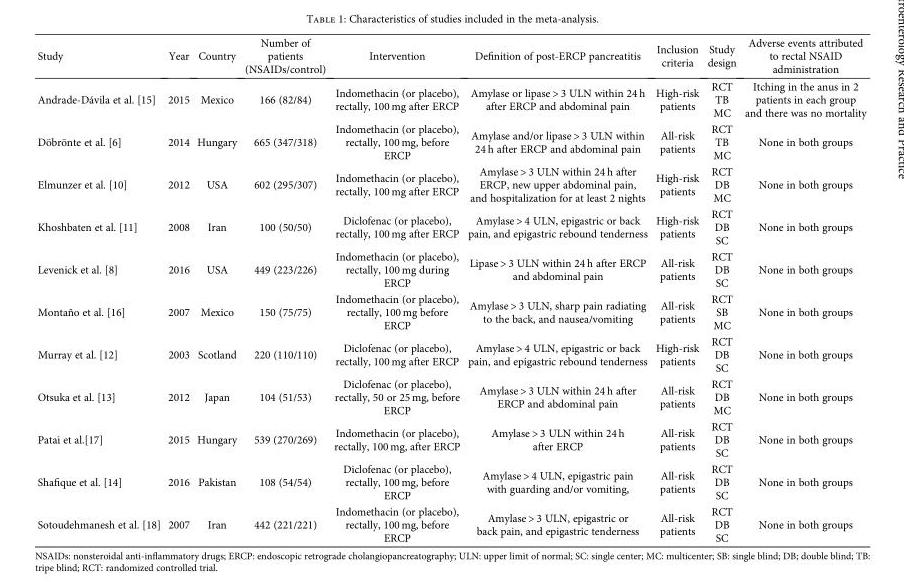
<table><thead><tr><td>Study</td><td>Year</td><td>Country</td><td>Number of patients (NSAIDs/control)</td><td>Intervention</td><td>Definition of post-ERCP pancreatitis</td><td>Inclusion criteria</td><td>Study design</td><td>Adverse events attributed to rectal NSAID administration</td></tr></thead><tbody><tr><td>Andrade-Dávila et al. [15]</td><td>2015</td><td>Mexico</td><td>166 (82/84)</td><td>Indomethacin (or placebo), rectally, 100 mg after ERCP</td><td>Amylase or lipase &gt; 3 ULN within 24 h after ERCP and abdominal pain</td><td>High-risk patients</td><td>RCT TB MC</td><td>Itching in the anus in 2 patients in each group and there was no mortality</td></tr><tr><td>Döbrönte et al. [6]</td><td>2014</td><td>Hungary</td><td>665 (347/318)</td><td>Indomethacin (or placebo), rectally, 100 mg, before ERCP</td><td>Amylase and/or lipase &gt; 3 ULN within 24 h after ERCP and abdominal pain</td><td>All-risk patients</td><td>RCT TB MC</td><td>None in both groups</td></tr><tr><td>Elmunzer et al. [10]</td><td>2012</td><td>USA</td><td>602 (295/307)</td><td>Indomethacin (or placebo), rectally, 100 mg after ERCP</td><td>Amylase &gt; 3 ULN within 24 h after ERCP, new upper abdominal pain, and hospitalization for at least 2 nights</td><td>High-risk patients</td><td>RCT DB MC</td><td>None in both groups</td></tr><tr><td>Khoshbaten et al. [11]</td><td>2008</td><td>Iran</td><td>100 (50/50)</td><td>Diclofenac (or placebo), rectally, 100 mg after ERCP</td><td>Amylase &gt; 4 ULN, epigastric or back pain, and epigastric rebound tenderness</td><td>High-risk patients</td><td>RCT DB SC</td><td>None in both groups</td></tr><tr><td>Levenick et al. [8]</td><td>2016</td><td>USA</td><td>449 (223/226)</td><td>Indomethacin (or placebo), rectally, 100 mg during ERCP</td><td>Lipase &gt; 3 ULN within 24 h after ERCP and abdominal pain</td><td>All-risk patients</td><td>RCT DB SC</td><td>None in both groups</td></tr><tr><td>Montaño et al. [16]</td><td>2007</td><td>Mexico</td><td>150 (75/75)</td><td>Indomethacin (or placebo), rectally, 100 mg before ERCP</td><td>Amylase &gt; 3 ULN, sharp pain radiating to the back, and nausea/vomiting</td><td>All-risk patients</td><td>RCT SB MC</td><td>None in both groups</td></tr><tr><td>Murray et al. [12]</td><td>2003</td><td>Scotland</td><td>220 (110/110)</td><td>Diclofenac (or placebo), rectally, 100 mg after ERCP</td><td>Amylase &gt; 4 ULN, epigastric or back pain, and epigastric rebound tenderness</td><td>High-risk patients</td><td>RCT DB SC</td><td>None in both groups</td></tr><tr><td>Otsuka et al. [13]</td><td>2012</td><td>Japan</td><td>104 (51/53)</td><td>Diclofenac (or placebo), rectally, 50 or 25 mg, before ERCP</td><td>Amylase &gt; 3 ULN within 24 h after ERCP and abdominal pain</td><td>All-risk patients</td><td>RCT DB MC</td><td>None in both groups</td></tr><tr><td>Patai et al.[17]</td><td>2015</td><td>Hungary</td><td>539 (270/269)</td><td>Indomethacin (or placebo), rectally, 100 mg, after ERCP</td><td>Amylase &gt; 3 ULN within 24 h after ERCP</td><td>All-risk patients</td><td>RCT DB SC</td><td>None in both groups</td></tr><tr><td>Shafique et al. [14]</td><td>2016</td><td>Pakistan</td><td>108 (54/54)</td><td>Diclofenac (or placebo), rectally, 100 mg, before ERCP</td><td>Amylase &gt; 4 ULN, epigastric pain with guarding and/or vomiting,</td><td>All-risk patients</td><td>RCT DB SC</td><td>None in both groups</td></tr><tr><td>Sotoudehmanesh et al. [18]</td><td>2007</td><td>Iran</td><td>442 (221/221)</td><td>Indomethacin (or placebo), rectally, 100 mg, before ERCP</td><td>Amylase &gt; 3 ULN, epigastric or back pain, and epigastric tenderness</td><td>All-risk patients</td><td>RCT DB SC</td><td>None in both groups</td></tr></tbody></table>